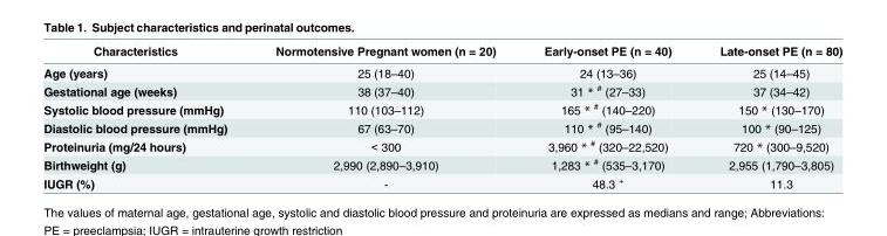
<table><thead><tr><td>Characteristics</td><td>Normotensive Pregnant women (n = 20)</td><td>Early-onset PE (n = 40)</td><td>Late-onset PE (n = 80)</td></tr></thead><tbody><tr><td>Age (years)</td><td>25 (18–40)</td><td>24 (13–36)</td><td>25 (14–45)</td></tr><tr><td>Gestational age (weeks)</td><td>38 (37–40)</td><td>31 * <sup>#</sup> (27–33)</td><td>37 (34–42)</td></tr><tr><td>Systolic blood pressure (mmHg)</td><td>110 (103–112)</td><td>165 * <sup>#</sup> (140–220)</td><td>150 * (130–170)</td></tr><tr><td>Diastolic blood pressure (mmHg)</td><td>67 (63–70)</td><td>110 * <sup>#</sup> (95–140)</td><td>100 * (90–125)</td></tr><tr><td>Proteinuria (mg/24 hours)</td><td>&lt; 300</td><td>3,960 * <sup>#</sup> (320–22,520)</td><td>720 * (300–9,520)</td></tr><tr><td>Birthweight (g)</td><td>2,990 (2,890–3,910)</td><td>1,283 * <sup>#</sup> (535–3,170)</td><td>2,955 (1,790–3,805)</td></tr><tr><td>IUGR (%)</td><td>-</td><td>48.3 <sup>+</sup></td><td>11.3</td></tr></tbody></table>